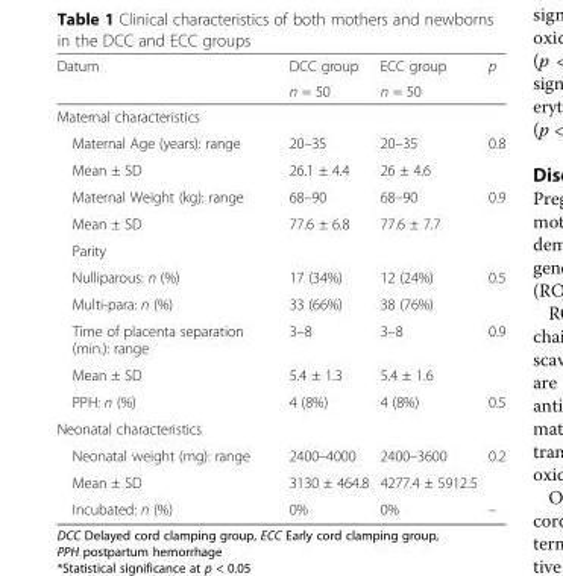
<table><thead><tr><td rowspan="2">Datum</td><td rowspan="2">DCC group n = 50</td><td rowspan="2">ECC group n = 50</td><td rowspan="2">p</td></tr><tr></tr></thead><tbody><tr><td colspan="4">Maternal characteristics</td></tr><tr><td>Maternal Age (years): range</td><td>20–35</td><td>20–35</td><td rowspan="2">0.8</td></tr><tr><td>Mean ± SD</td><td>26.1 ± 4.4</td><td>26 ± 4.6</td></tr><tr><td>Maternal Weight (kg): range</td><td>68–90</td><td>68–90</td><td rowspan="2">0.9</td></tr><tr><td>Mean ± SD</td><td>77.6 ± 6.8</td><td>77.6 ± 7.7</td></tr><tr><td colspan="4">Parity</td></tr><tr><td>Nulliparous: n (%)</td><td>17 (34%)</td><td>12 (24%)</td><td rowspan="2">0.5</td></tr><tr><td>Multi-para: n (%)</td><td>33 (66%)</td><td>38 (76%)</td></tr><tr><td>Time of placenta separation (min.): range</td><td>3–8</td><td>3–8</td><td rowspan="2">0.9</td></tr><tr><td>Mean ± SD</td><td>5.4 ± 1.3</td><td>5.4 ± 1.6</td></tr><tr><td>PPH: n (%)</td><td>4 (8%)</td><td>4 (8%)</td><td>0.5</td></tr><tr><td colspan="4">Neonatal characteristics</td></tr><tr><td>Neonatal weight (mg): range</td><td>2400–4000</td><td>2400–3600</td><td rowspan="2">0.2</td></tr><tr><td>Mean ± SD</td><td>3130 ± 464.8</td><td>4277.4 ± 5912.5</td></tr><tr><td>Incubated: n (%)</td><td>0%</td><td>0%</td><td>–</td></tr></tbody></table>